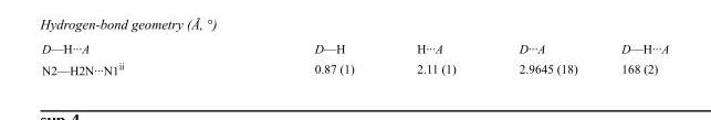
<table><tbody><tr><td>D—H···A</td><td>D—H</td><td>H···A</td><td>D···A</td><td>D—H···A</td></tr><tr><td>N2—H2N···N1<sup>ii</sup></td><td>0.87 (1)</td><td>2.11 (1)</td><td>2.9645 (18)</td><td>168 (2)</td></tr></tbody></table>